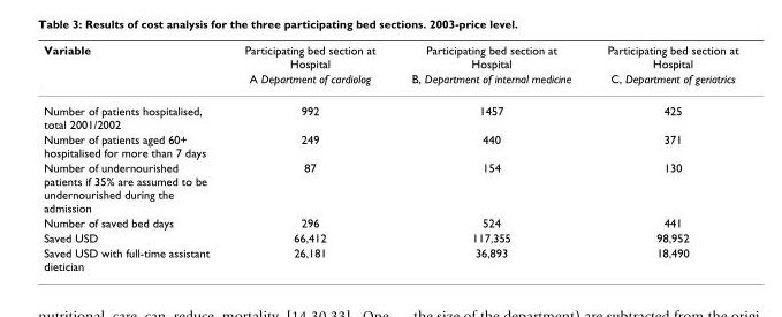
<table><thead><tr><td rowspan="2">Variable</td><td rowspan="2">Participating bed section at Hospital A Department of cardiolog</td><td rowspan="2">Participating bed section at Hospital B, Department of internal medicine</td><td rowspan="2">Participating bed section at Hospital C, Department of geriatrics</td></tr><tr></tr></thead><tbody><tr><td>Number of patients hospitalised, total 2001/2002</td><td>992</td><td>1457</td><td>425</td></tr><tr><td>Number of patients aged 60+ hospitalised for more than 7 days</td><td>249</td><td>440</td><td>371</td></tr><tr><td>Number of undernourished patients if 35% are assumed to be undernourished during the admission</td><td>87</td><td>154</td><td>130</td></tr><tr><td>Number of saved bed days</td><td>296</td><td>524</td><td>441</td></tr><tr><td>Saved USD</td><td>66,412</td><td>117,355</td><td>98,952</td></tr><tr><td>Saved USD with full-time assistant dietician</td><td>26,181</td><td>36,893</td><td>18,490</td></tr></tbody></table>